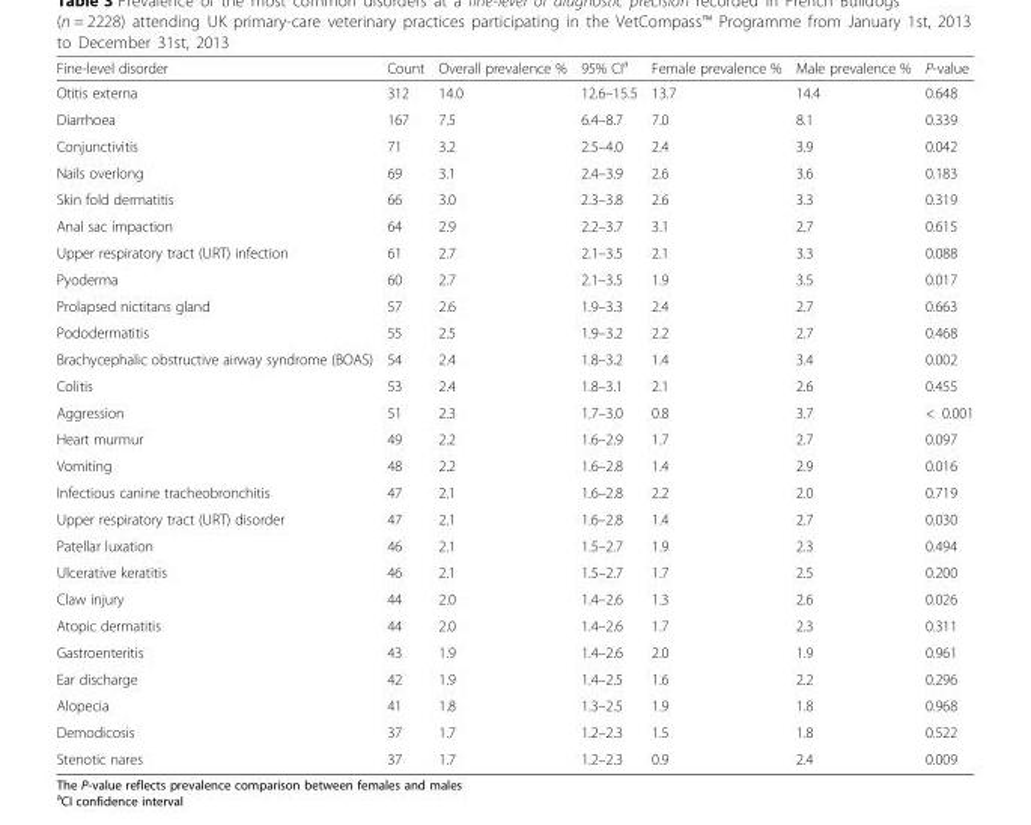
<table><thead><tr><td>Fine-level disorder</td><td>Count</td><td>Overall prevalence %</td><td>95% CI<sup>a</sup></td><td>Female prevalence %</td><td>Male prevalence %</td><td>P-value</td></tr></thead><tbody><tr><td>Otitis externa</td><td>312</td><td>14.0</td><td>12.6–15.5</td><td>13.7</td><td>14.4</td><td>0.648</td></tr><tr><td>Diarrhoea</td><td>167</td><td>7.5</td><td>6.4–8.7</td><td>7.0</td><td>8.1</td><td>0.339</td></tr><tr><td>Conjunctivitis</td><td>71</td><td>3.2</td><td>2.5–4.0</td><td>2.4</td><td>3.9</td><td>0.042</td></tr><tr><td>Nails overlong</td><td>69</td><td>3.1</td><td>2.4–3.9</td><td>2.6</td><td>3.6</td><td>0.183</td></tr><tr><td>Skin fold dermatitis</td><td>66</td><td>3.0</td><td>2.3–3.8</td><td>2.6</td><td>3.3</td><td>0.319</td></tr><tr><td>Anal sac impaction</td><td>64</td><td>2.9</td><td>2.2–3.7</td><td>3.1</td><td>2.7</td><td>0.615</td></tr><tr><td>Upper respiratory tract (URT) infection</td><td>61</td><td>2.7</td><td>2.1–3.5</td><td>2.1</td><td>3.3</td><td>0.088</td></tr><tr><td>Pyoderma</td><td>60</td><td>2.7</td><td>2.1–3.5</td><td>1.9</td><td>3.5</td><td>0.017</td></tr><tr><td>Prolapsed nictitans gland</td><td>57</td><td>2.6</td><td>1.9–3.3</td><td>2.4</td><td>2.7</td><td>0.663</td></tr><tr><td>Pododermatitis</td><td>55</td><td>2.5</td><td>1.9–3.2</td><td>2.2</td><td>2.7</td><td>0.468</td></tr><tr><td>Brachycephalic obstructive airway syndrome (BOAS)</td><td>54</td><td>2.4</td><td>1.8–3.2</td><td>1.4</td><td>3.4</td><td>0.002</td></tr><tr><td>Colitis</td><td>53</td><td>2.4</td><td>1.8–3.1</td><td>2.1</td><td>2.6</td><td>0.455</td></tr><tr><td>Aggression</td><td>51</td><td>2.3</td><td>1.7–3.0</td><td>0.8</td><td>3.7</td><td>&lt; 0.001</td></tr><tr><td>Heart murmur</td><td>49</td><td>2.2</td><td>1.6–2.9</td><td>1.7</td><td>2.7</td><td>0.097</td></tr><tr><td>Vomiting</td><td>48</td><td>2.2</td><td>1.6–2.8</td><td>1.4</td><td>2.9</td><td>0.016</td></tr><tr><td>Infectious canine tracheobronchitis</td><td>47</td><td>2.1</td><td>1.6–2.8</td><td>2.2</td><td>2.0</td><td>0.719</td></tr><tr><td>Upper respiratory tract (URT) disorder</td><td>47</td><td>2.1</td><td>1.6–2.8</td><td>1.4</td><td>2.7</td><td>0.030</td></tr><tr><td>Patellar luxation</td><td>46</td><td>2.1</td><td>1.5–2.7</td><td>1.9</td><td>2.3</td><td>0.494</td></tr><tr><td>Ulcerative keratitis</td><td>46</td><td>2.1</td><td>1.5–2.7</td><td>1.7</td><td>2.5</td><td>0.200</td></tr><tr><td>Claw injury</td><td>44</td><td>2.0</td><td>1.4–2.6</td><td>1.3</td><td>2.6</td><td>0.026</td></tr><tr><td>Atopic dermatitis</td><td>44</td><td>2.0</td><td>1.4–2.6</td><td>1.7</td><td>2.3</td><td>0.311</td></tr><tr><td>Gastroenteritis</td><td>43</td><td>1.9</td><td>1.4–2.6</td><td>2.0</td><td>1.9</td><td>0.961</td></tr><tr><td>Ear discharge</td><td>42</td><td>1.9</td><td>1.4–2.5</td><td>1.6</td><td>2.2</td><td>0.296</td></tr><tr><td>Alopecia</td><td>41</td><td>1.8</td><td>1.3–2.5</td><td>1.9</td><td>1.8</td><td>0.968</td></tr><tr><td>Demodicosis</td><td>37</td><td>1.7</td><td>1.2–2.3</td><td>1.5</td><td>1.8</td><td>0.522</td></tr><tr><td>Stenotic nares</td><td>37</td><td>1.7</td><td>1.2–2.3</td><td>0.9</td><td>2.4</td><td>0.009</td></tr></tbody></table>